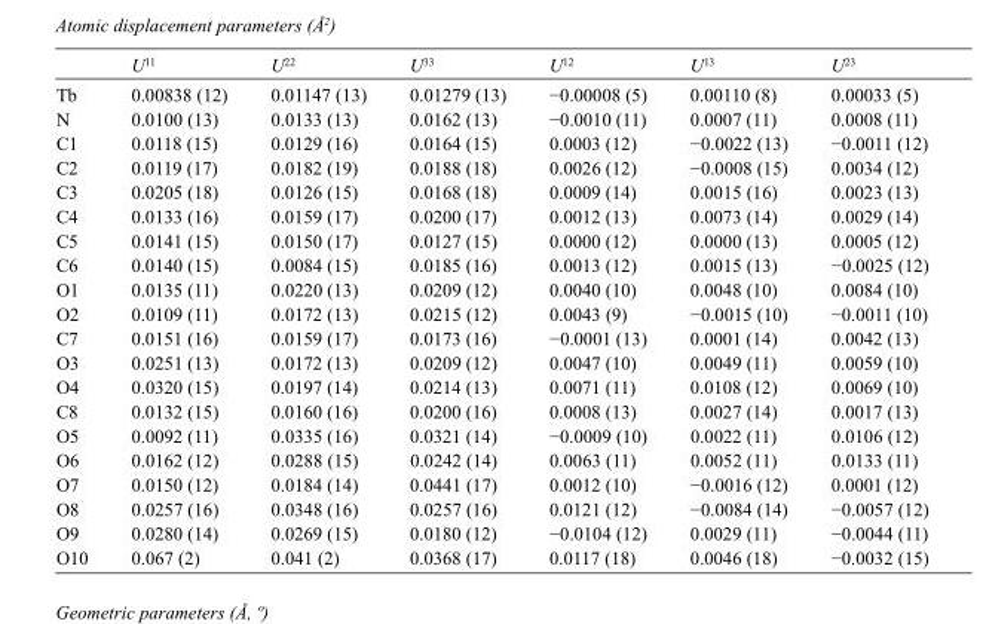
<table><thead><tr><td></td><td>U<sup>11</sup></td><td>U<sup>22</sup></td><td>U<sup>33</sup></td><td>U<sup>12</sup></td><td>U<sup>13</sup></td><td>U<sup>23</sup></td></tr></thead><tbody><tr><td>Tb</td><td>0.00838 (12)</td><td>0.01147 (13)</td><td>0.01279 (13)</td><td>−0.00008 (5)</td><td>0.00110 (8)</td><td>0.00033 (5)</td></tr><tr><td>N</td><td>0.0100 (13)</td><td>0.0133 (13)</td><td>0.0162 (13)</td><td>−0.0010 (11)</td><td>0.0007 (11)</td><td>0.0008 (11)</td></tr><tr><td>C1</td><td>0.0118 (15)</td><td>0.0129 (16)</td><td>0.0164 (15)</td><td>0.0003 (12)</td><td>−0.0022 (13)</td><td>−0.0011 (12)</td></tr><tr><td>C2</td><td>0.0119 (17)</td><td>0.0182 (19)</td><td>0.0188 (18)</td><td>0.0026 (12)</td><td>−0.0008 (15)</td><td>0.0034 (12)</td></tr><tr><td>C3</td><td>0.0205 (18)</td><td>0.0126 (15)</td><td>0.0168 (18)</td><td>0.0009 (14)</td><td>0.0015 (16)</td><td>0.0023 (13)</td></tr><tr><td>C4</td><td>0.0133 (16)</td><td>0.0159 (17)</td><td>0.0200 (17)</td><td>0.0012 (13)</td><td>0.0073 (14)</td><td>0.0029 (14)</td></tr><tr><td>C5</td><td>0.0141 (15)</td><td>0.0150 (17)</td><td>0.0127 (15)</td><td>0.0000 (12)</td><td>0.0000 (13)</td><td>0.0005 (12)</td></tr><tr><td>C6</td><td>0.0140 (15)</td><td>0.0084 (15)</td><td>0.0185 (16)</td><td>0.0013 (12)</td><td>0.0015 (13)</td><td>−0.0025 (12)</td></tr><tr><td>O1</td><td>0.0135 (11)</td><td>0.0220 (13)</td><td>0.0209 (12)</td><td>0.0040 (10)</td><td>0.0048 (10)</td><td>0.0084 (10)</td></tr><tr><td>O2</td><td>0.0109 (11)</td><td>0.0172 (13)</td><td>0.0215 (12)</td><td>0.0043 (9)</td><td>−0.0015 (10)</td><td>−0.0011 (10)</td></tr><tr><td>C7</td><td>0.0151 (16)</td><td>0.0159 (17)</td><td>0.0173 (16)</td><td>−0.0001 (13)</td><td>0.0001 (14)</td><td>0.0042 (13)</td></tr><tr><td>O3</td><td>0.0251 (13)</td><td>0.0172 (13)</td><td>0.0209 (12)</td><td>0.0047 (10)</td><td>0.0049 (11)</td><td>0.0059 (10)</td></tr><tr><td>O4</td><td>0.0320 (15)</td><td>0.0197 (14)</td><td>0.0214 (13)</td><td>0.0071 (11)</td><td>0.0108 (12)</td><td>0.0069 (10)</td></tr><tr><td>C8</td><td>0.0132 (15)</td><td>0.0160 (16)</td><td>0.0200 (16)</td><td>0.0008 (13)</td><td>0.0027 (14)</td><td>0.0017 (13)</td></tr><tr><td>O5</td><td>0.0092 (11)</td><td>0.0335 (16)</td><td>0.0321 (14)</td><td>−0.0009 (10)</td><td>0.0022 (11)</td><td>0.0106 (12)</td></tr><tr><td>O6</td><td>0.0162 (12)</td><td>0.0288 (15)</td><td>0.0242 (14)</td><td>0.0063 (11)</td><td>0.0052 (11)</td><td>0.0133 (11)</td></tr><tr><td>O7</td><td>0.0150 (12)</td><td>0.0184 (14)</td><td>0.0441 (17)</td><td>0.0012 (10)</td><td>−0.0016 (12)</td><td>0.0001 (12)</td></tr><tr><td>O8</td><td>0.0257 (16)</td><td>0.0348 (16)</td><td>0.0257 (16)</td><td>0.0121 (12)</td><td>−0.0084 (14)</td><td>−0.0057 (12)</td></tr><tr><td>O9</td><td>0.0280 (14)</td><td>0.0269 (15)</td><td>0.0180 (12)</td><td>−0.0104 (12)</td><td>0.0029 (11)</td><td>−0.0044 (11)</td></tr><tr><td>O10</td><td>0.067 (2)</td><td>0.041 (2)</td><td>0.0368 (17)</td><td>0.0117 (18)</td><td>0.0046 (18)</td><td>−0.0032 (15)</td></tr></tbody></table>